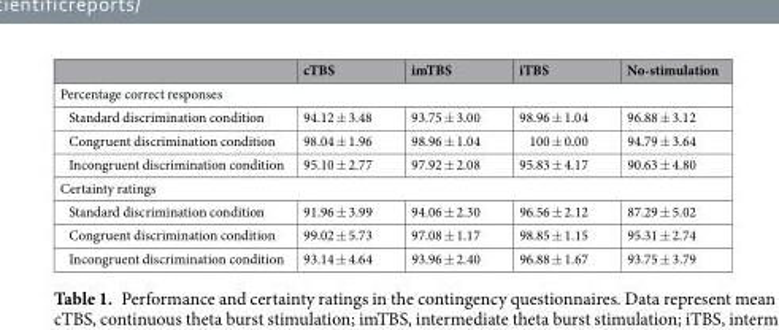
<table><thead><tr><td></td><td>cTBS</td><td>imTBS</td><td>iTBS</td><td>No-stimulation</td></tr></thead><tbody><tr><td colspan="5">Percentage correct responses</td></tr><tr><td>Standard discrimination condition</td><td>94.12 ± 3.48</td><td>93.75 ± 3.00</td><td>98.96 ± 1.04</td><td>96.88 ± 3.12</td></tr><tr><td>Congruent discrimination condition</td><td>98.04 ± 1.96</td><td>98.96 ± 1.04</td><td>100 ± 0.00</td><td>94.79 ± 3.64</td></tr><tr><td>Incongruent discrimination condition</td><td>95.10 ± 2.77</td><td>97.92 ± 2.08</td><td>95.83 ± 4.17</td><td>90.63 ± 4.80</td></tr><tr><td colspan="5">Certainty ratings</td></tr><tr><td>Standard discrimination condition</td><td>91.96 ± 3.99</td><td>94.06 ± 2.30</td><td>96.56 ± 2.12</td><td>87.29 ± 5.02</td></tr><tr><td>Congruent discrimination condition</td><td>99.02 ± 5.73</td><td>97.08 ± 1.17</td><td>98.85 ± 1.15</td><td>95.31 ± 2.74</td></tr><tr><td>Incongruent discrimination condition</td><td>93.14 ± 4.64</td><td>93.96 ± 2.40</td><td>96.88 ± 1.67</td><td>93.75 ± 3.79</td></tr></tbody></table>